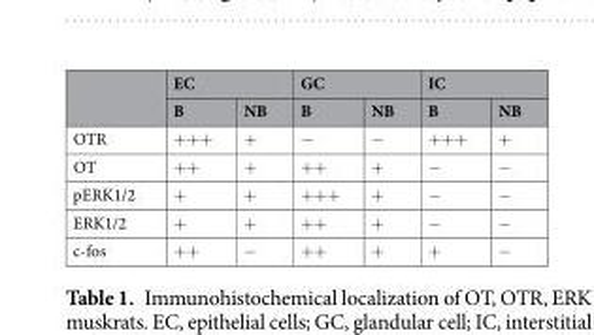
<table><thead><tr><td rowspan="2"></td><td colspan="2">EC</td><td colspan="2">GC</td><td colspan="2">IC</td></tr><tr><td>B</td><td>NB</td><td>B</td><td>NB</td><td>B</td><td>NB</td></tr></thead><tbody><tr><td>OTR</td><td>+++</td><td>+</td><td>−</td><td>−</td><td>+++</td><td>+</td></tr><tr><td>OT</td><td>++</td><td>+</td><td>++</td><td>+</td><td>−</td><td>−</td></tr><tr><td>pERK1/2</td><td>+</td><td>+</td><td>+++</td><td>+</td><td>−</td><td>−</td></tr><tr><td>ERK1/2</td><td>+</td><td>+</td><td>++</td><td>+</td><td>−</td><td>−</td></tr><tr><td>c-fos</td><td>++</td><td>−</td><td>++</td><td>+</td><td>+</td><td>−</td></tr></tbody></table>